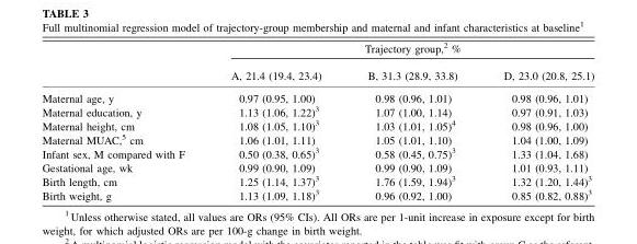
<table><thead><tr><td rowspan="2"></td><td colspan="3">Trajectory group,<sup>2</sup> %</td></tr><tr><td>A, 21.4 (19.4, 23.4)</td><td>B, 31.3 (28.9, 33.8)</td><td>D, 23.0 (20.8, 25.1)</td></tr></thead><tbody><tr><td>Maternal age, y</td><td>0.97 (0.95, 1.00)</td><td>0.98 (0.96, 1.01)</td><td>0.98 (0.96, 1.01)</td></tr><tr><td>Maternal education, y</td><td>1.13 (1.06, 1.22)<sup>3</sup></td><td>1.07 (1.00, 1.14)</td><td>0.97 (0.91, 1.03)</td></tr><tr><td>Maternal height, cm</td><td>1.08 (1.05, 1.10)<sup>3</sup></td><td>1.03 (1.01, 1.05)<sup>4</sup></td><td>0.98 (0.96, 1.00)</td></tr><tr><td>Maternal MUAC,<sup>5</sup> cm</td><td>1.06 (1.01, 1.11)</td><td>1.05 (1.01, 1.10)</td><td>1.04 (1.00, 1.09)</td></tr><tr><td>Infant sex, M compared with F</td><td>0.50 (0.38, 0.65)<sup>3</sup></td><td>0.58 (0.45, 0.75)<sup>3</sup></td><td>1.33 (1.04, 1.68)</td></tr><tr><td>Gestational age, wk</td><td>0.99 (0.90, 1.09)</td><td>0.99 (0.90, 1.09)</td><td>1.01 (0.93, 1.11)</td></tr><tr><td>Birth length, cm</td><td>1.25 (1.14, 1.37)<sup>3</sup></td><td>1.76 (1.59, 1.94)<sup>3</sup></td><td>1.32 (1.20, 1.44)<sup>3</sup></td></tr><tr><td>Birth weight, g</td><td>1.13 (1.09, 1.18)<sup>3</sup></td><td>0.96 (0.92, 1.00)</td><td>0.85 (0.82, 0.88)<sup>3</sup></td></tr></tbody></table>